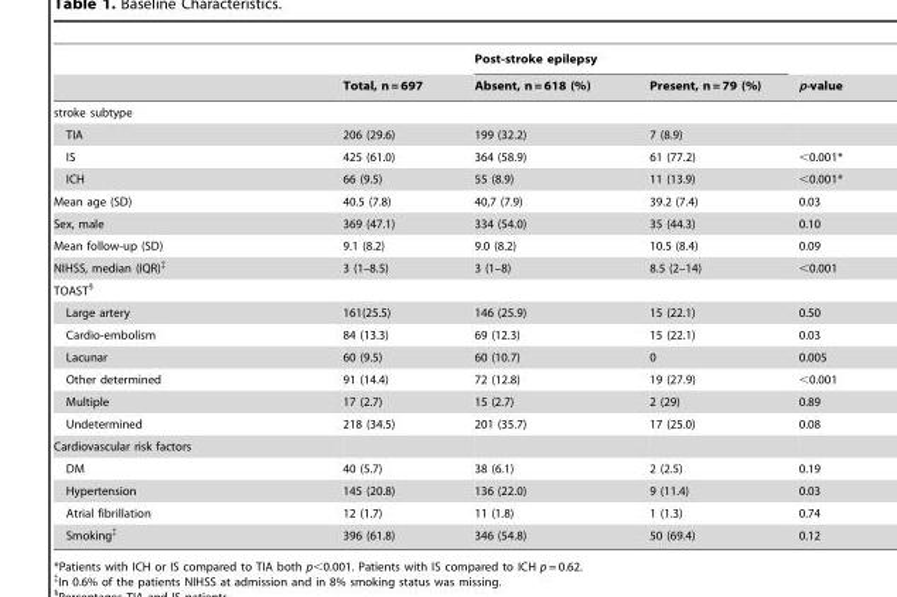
<table><thead><tr><td rowspan="2"></td><td rowspan="2">Total, n = 697</td><td colspan="2">Post-stroke epilepsy</td><td rowspan="2">p-value</td></tr><tr><td>Absent, n = 618 (%)</td><td>Present, n = 79 (%)</td></tr></thead><tbody><tr><td colspan="5">stroke subtype</td></tr><tr><td>TIA</td><td>206 (29.6)</td><td>199 (32.2)</td><td>7 (8.9)</td><td></td></tr><tr><td>IS</td><td>425 (61.0)</td><td>364 (58.9)</td><td>61 (77.2)</td><td>&lt;0.001*</td></tr><tr><td>ICH</td><td>66 (9.5)</td><td>55 (8.9)</td><td>11 (13.9)</td><td>&lt;0.001*</td></tr><tr><td>Mean age (SD)</td><td>40.5 (7.8)</td><td>40,7 (7.9)</td><td>39.2 (7.4)</td><td>0.03</td></tr><tr><td>Sex, male</td><td>369 (47.1)</td><td>334 (54.0)</td><td>35 (44.3)</td><td>0.10</td></tr><tr><td>Mean follow-up (SD)</td><td>9.1 (8.2)</td><td>9.0 (8.2)</td><td>10.5 (8.4)</td><td>0.09</td></tr><tr><td>NIHSS, median (IQR)‡</td><td>3 (1–8.5)</td><td>3 (1–8)</td><td>8.5 (2–14)</td><td>&lt;0.001</td></tr><tr><td colspan="5">TOAST§</td></tr><tr><td>Large artery</td><td>161(25.5)</td><td>146 (25.9)</td><td>15 (22.1)</td><td>0.50</td></tr><tr><td>Cardio-embolism</td><td>84 (13.3)</td><td>69 (12.3)</td><td>15 (22.1)</td><td>0.03</td></tr><tr><td>Lacunar</td><td>60 (9.5)</td><td>60 (10.7)</td><td>0</td><td>0.005</td></tr><tr><td>Other determined</td><td>91 (14.4)</td><td>72 (12.8)</td><td>19 (27.9)</td><td>&lt;0.001</td></tr><tr><td>Multiple</td><td>17 (2.7)</td><td>15 (2.7)</td><td>2 (29)</td><td>0.89</td></tr><tr><td>Undetermined</td><td>218 (34.5)</td><td>201 (35.7)</td><td>17 (25.0)</td><td>0.08</td></tr><tr><td colspan="5">Cardiovascular risk factors</td></tr><tr><td>DM</td><td>40 (5.7)</td><td>38 (6.1)</td><td>2 (2.5)</td><td>0.19</td></tr><tr><td>Hypertension</td><td>145 (20.8)</td><td>136 (22.0)</td><td>9 (11.4)</td><td>0.03</td></tr><tr><td>Atrial fibrillation</td><td>12 (1.7)</td><td>11 (1.8)</td><td>1 (1.3)</td><td>0.74</td></tr><tr><td>Smoking‡</td><td>396 (61.8)</td><td>346 (54.8)</td><td>50 (69.4)</td><td>0.12</td></tr></tbody></table>